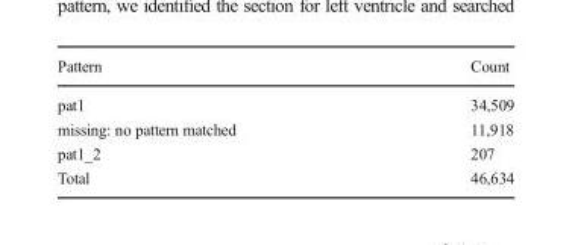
<table><thead><tr><td>Pattern</td><td>Count</td></tr></thead><tbody><tr><td>pat1</td><td>34,509</td></tr><tr><td>missing: no pattern matched</td><td>11,918</td></tr><tr><td>pat1_2</td><td>207</td></tr><tr><td>Total</td><td>46,634</td></tr></tbody></table>